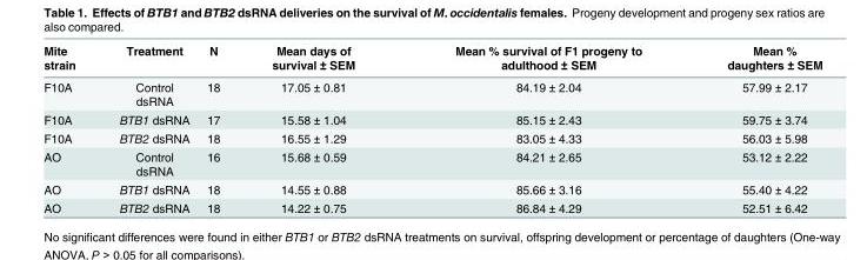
<table><thead><tr><td>Mite strain</td><td>Treatment</td><td>N</td><td>Mean days of survival ± SEM</td><td>Mean % survival of F1 progeny to adulthood ± SEM</td><td>Mean % daughters ± SEM</td></tr></thead><tbody><tr><td>F10A</td><td>Control dsRNA</td><td>18</td><td>17.05 ± 0.81</td><td>84.19 ± 2.04</td><td>57.99 ± 2.17</td></tr><tr><td>F10A</td><td>BTB1 dsRNA</td><td>17</td><td>15.58 ± 1.04</td><td>85.15 ± 2.43</td><td>59.75 ± 3.74</td></tr><tr><td>F10A</td><td>BTB2 dsRNA</td><td>18</td><td>16.55 ± 1.29</td><td>83.05 ± 4.33</td><td>56.03 ± 5.98</td></tr><tr><td>AO</td><td>Control dsRNA</td><td>16</td><td>15.68 ± 0.59</td><td>84.21 ± 2.65</td><td>53.12 ± 2.22</td></tr><tr><td>AO</td><td>BTB1 dsRNA</td><td>18</td><td>14.55 ± 0.88</td><td>85.66 ± 3.16</td><td>55.40 ± 4.22</td></tr><tr><td>AO</td><td>BTB2 dsRNA</td><td>18</td><td>14.22 ± 0.75</td><td>86.84 ± 4.29</td><td>52.51 ± 6.42</td></tr></tbody></table>